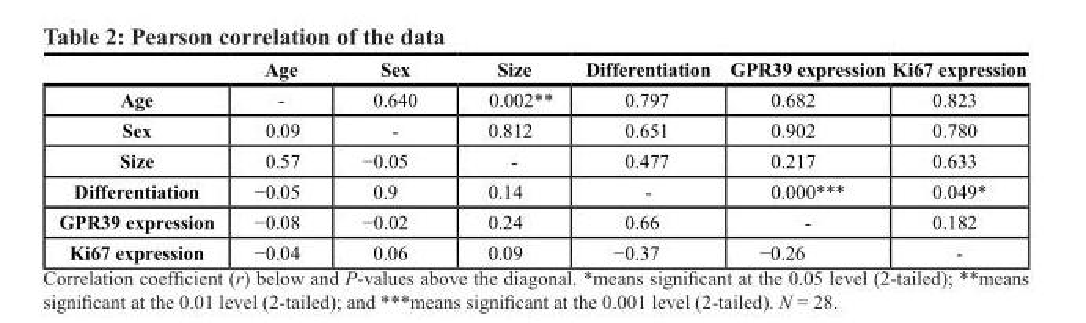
<table><thead><tr><td></td><td>Age</td><td>Sex</td><td>Size</td><td>Differentiation</td><td>GPR39 expression</td><td>Ki67 expression</td></tr></thead><tbody><tr><td>Age</td><td>-</td><td>0.640</td><td>0.002**</td><td>0.797</td><td>0.682</td><td>0.823</td></tr><tr><td>Sex</td><td>0.09</td><td>-</td><td>0.812</td><td>0.651</td><td>0.902</td><td>0.780</td></tr><tr><td>Size</td><td>0.57</td><td>−0.05</td><td>-</td><td>0.477</td><td>0.217</td><td>0.633</td></tr><tr><td>Differentiation</td><td>−0.05</td><td>0.9</td><td>0.14</td><td>-</td><td>0.000***</td><td>0.049*</td></tr><tr><td>GPR39 expression</td><td>−0.08</td><td>−0.02</td><td>0.24</td><td>0.66</td><td>-</td><td>0.182</td></tr><tr><td>Ki67 expression</td><td>−0.04</td><td>0.06</td><td>0.09</td><td>−0.37</td><td>−0.26</td><td>-</td></tr></tbody></table>